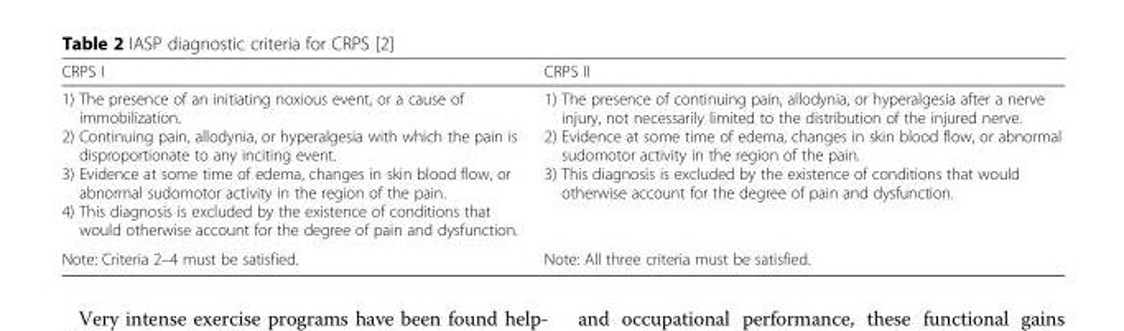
<table><thead><tr><td>CRPS I</td><td>CRPS II</td></tr></thead><tbody><tr><td>1) The presence of an initiating noxious event, or a cause of immobilization. 2) Continuing pain, allodynia, or hyperalgesia with which the pain is disproportionate to any inciting event. 3) Evidence at some time of edema, changes in skin blood flow, or abnormal sudomotor activity in the region of the pain. 4) This diagnosis is excluded by the existence of conditions that would otherwise account for the degree of pain and dysfunction.</td><td>1) The presence of continuing pain, allodynia, or hyperalgesia after a nerve injury, not necessarily limited to the distribution of the injured nerve. 2) Evidence at some time of edema, changes in skin blood flow, or abnormal sudomotor activity in the region of the pain. 3) This diagnosis is excluded by the existence of conditions that would otherwise account for the degree of pain and dysfunction.</td></tr><tr><td>Note: Criteria 2–4 must be satisfied.</td><td>Note: All three criteria must be satisfied.</td></tr></tbody></table>